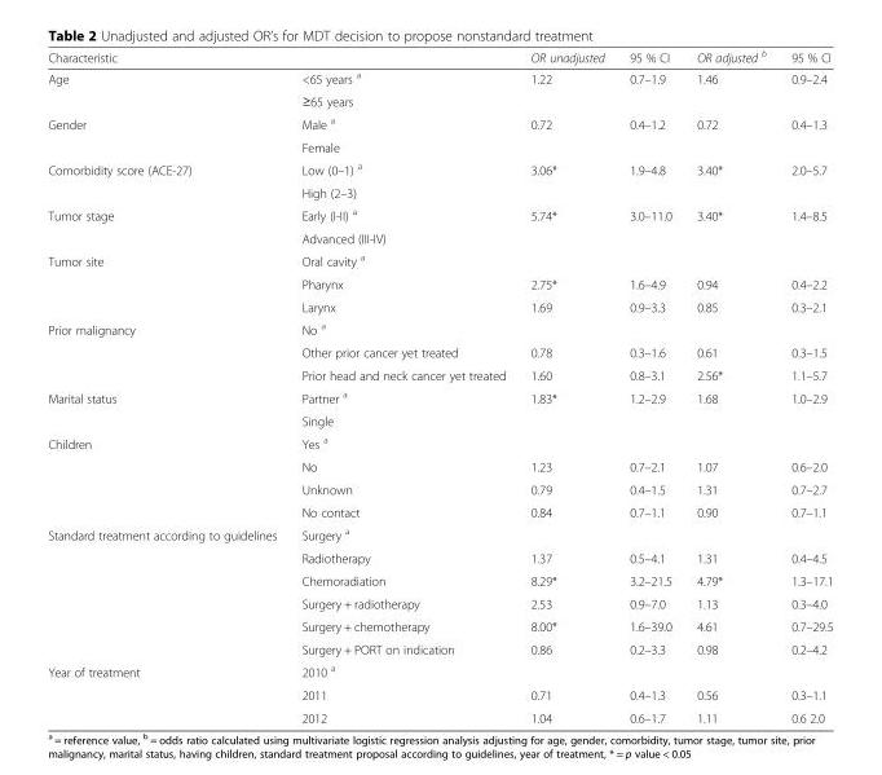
<table><thead><tr><td>Characteristic</td><td></td><td>OR unadjusted</td><td>95 % CI</td><td>OR adjusted <sup>b</sup></td><td>95 % CI</td></tr></thead><tbody><tr><td rowspan="2">Age</td><td>&lt;65 years <sup>a</sup></td><td rowspan="2">1.22</td><td rowspan="2">0.7–1.9</td><td rowspan="2">1.46</td><td rowspan="2">0.9–2.4</td></tr><tr><td>≥65 years</td></tr><tr><td rowspan="2">Gender</td><td>Male <sup>a</sup></td><td rowspan="2">0.72</td><td rowspan="2">0.4–1.2</td><td rowspan="2">0.72</td><td rowspan="2">0.4–1.3</td></tr><tr><td>Female</td></tr><tr><td rowspan="2">Comorbidity score (ACE-27)</td><td>Low (0–1) <sup>a</sup></td><td rowspan="2">3.06*</td><td rowspan="2">1.9–4.8</td><td rowspan="2">3.40*</td><td rowspan="2">2.0–5.7</td></tr><tr><td>High (2–3)</td></tr><tr><td rowspan="2">Tumor stage</td><td>Early (I-II) <sup>a</sup></td><td rowspan="2">5.74*</td><td rowspan="2">3.0–11.0</td><td rowspan="2">3.40*</td><td rowspan="2">1.4–8.5</td></tr><tr><td>Advanced (III-IV)</td></tr><tr><td rowspan="3">Tumor site</td><td>Oral cavity <sup>a</sup></td><td></td><td></td><td></td><td></td></tr><tr><td>Pharynx</td><td>2.75*</td><td>1.6–4.9</td><td>0.94</td><td>0.4–2.2</td></tr><tr><td>Larynx</td><td>1.69</td><td>0.9–3.3</td><td>0.85</td><td>0.3–2.1</td></tr><tr><td rowspan="3">Prior malignancy</td><td>No <sup>a</sup></td><td></td><td></td><td></td><td></td></tr><tr><td>Other prior cancer yet treated</td><td>0.78</td><td>0.3–1.6</td><td>0.61</td><td>0.3–1.5</td></tr><tr><td>Prior head and neck cancer yet treated</td><td>1.60</td><td>0.8–3.1</td><td>2.56*</td><td>1.1–5.7</td></tr><tr><td rowspan="2">Marital status</td><td>Partner <sup>a</sup></td><td rowspan="2">1.83*</td><td rowspan="2">1.2–2.9</td><td rowspan="2">1.68</td><td rowspan="2">1.0–2.9</td></tr><tr><td>Single</td></tr><tr><td rowspan="4">Children</td><td>Yes <sup>a</sup></td><td></td><td></td><td></td><td></td></tr><tr><td>No</td><td>1.23</td><td>0.7–2.1</td><td>1.07</td><td>0.6–2.0</td></tr><tr><td>Unknown</td><td>0.79</td><td>0.4–1.5</td><td>1.31</td><td>0.7–2.7</td></tr><tr><td>No contact</td><td>0.84</td><td>0.7–1.1</td><td>0.90</td><td>0.7–1.1</td></tr><tr><td rowspan="6">Standard treatment according to guidelines</td><td>Surgery <sup>a</sup></td><td></td><td></td><td></td><td></td></tr><tr><td>Radiotherapy</td><td>1.37</td><td>0.5–4.1</td><td>1.31</td><td>0.4–4.5</td></tr><tr><td>Chemoradiation</td><td>8.29*</td><td>3.2–21.5</td><td>4.79*</td><td>1.3–17.1</td></tr><tr><td>Surgery + radiotherapy</td><td>2.53</td><td>0.9–7.0</td><td>1.13</td><td>0.3–4.0</td></tr><tr><td>Surgery + chemotherapy</td><td>8.00*</td><td>1.6–39.0</td><td>4.61</td><td>0.7–29.5</td></tr><tr><td>Surgery + PORT on indication</td><td>0.86</td><td>0.2–3.3</td><td>0.98</td><td>0.2–4.2</td></tr><tr><td rowspan="3">Year of treatment</td><td>2010 <sup>a</sup></td><td></td><td></td><td></td><td></td></tr><tr><td>2011</td><td>0.71</td><td>0.4–1.3</td><td>0.56</td><td>0.3–1.1</td></tr><tr><td>2012</td><td>1.04</td><td>0.6–1.7</td><td>1.11</td><td>0.6 2.0</td></tr></tbody></table>